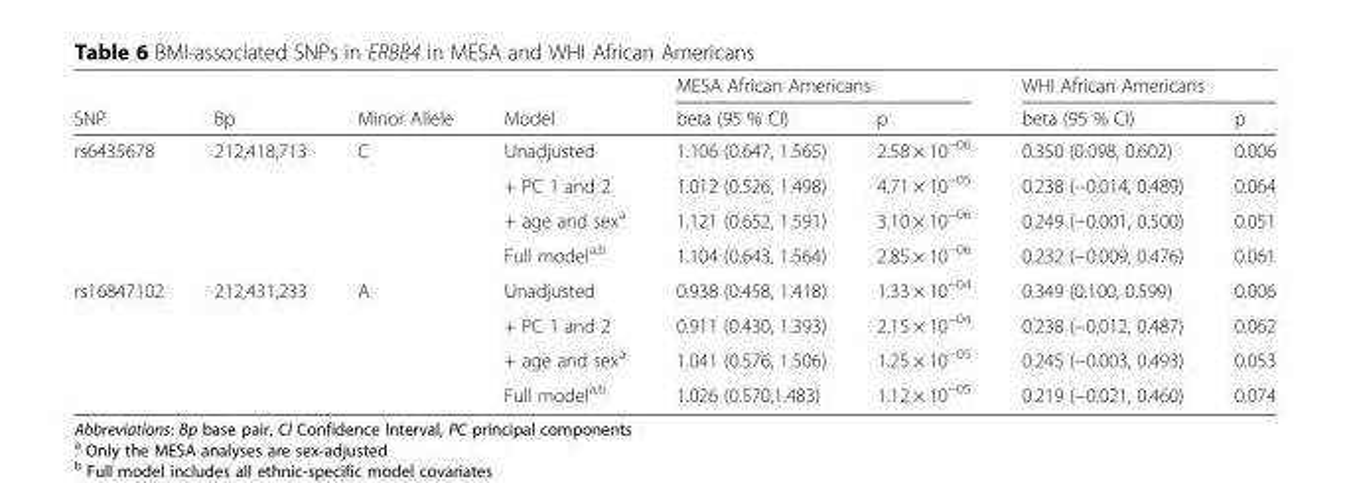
<table><thead><tr><td rowspan="2">SNP</td><td rowspan="2">Bp</td><td rowspan="2">Minor Allele</td><td rowspan="2">Model</td><td colspan="2">MESA African Americans</td><td colspan="2">WHI African Americans</td></tr><tr><td>beta (95 % CI)</td><td>p</td><td>beta (95 % CI)</td><td>p</td></tr></thead><tbody><tr><td rowspan="4">rs6435678</td><td rowspan="4">212,418,713</td><td rowspan="4">C</td><td>Unadjusted</td><td>1.106 (0.647, 1.565)</td><td>2.58 × 10<sup>−06</sup></td><td>0.350 (0.098, 0.602)</td><td>0.006</td></tr><tr><td>+ PC 1 and 2</td><td>1.012 (0.526, 1.498)</td><td>4.71 × 10<sup>−05</sup></td><td>0.238 (−0.014, 0.489)</td><td>0.064</td></tr><tr><td>+ age and sex<sup>a</sup></td><td>1.121 (0.652, 1.591)</td><td>3.10 × 10<sup>−06</sup></td><td>0.249 (−0.001, 0.500)</td><td>0.051</td></tr><tr><td>Full model<sup>a,b</sup></td><td>1.104 (0.643, 1.564)</td><td>2.85 × 10<sup>−06</sup></td><td>0.232 (−0.009, 0.476)</td><td>0.061</td></tr><tr><td rowspan="4">rs16847102</td><td rowspan="4">212,431,233</td><td rowspan="4">A</td><td>Unadjusted</td><td>0.938 (0.458, 1.418)</td><td>1.33 × 10<sup>−04</sup></td><td>0.349 (0.100, 0.599)</td><td>0.006</td></tr><tr><td>+ PC 1 and 2</td><td>0.911 (0.430, 1.393)</td><td>2.15 × 10<sup>−04</sup></td><td>0.238 (−0.012, 0.487)</td><td>0.062</td></tr><tr><td>+ age and sex<sup>a</sup></td><td>1.041 (0.576, 1.506)</td><td>1.25 × 10<sup>−05</sup></td><td>0.245 (−0.003, 0.493)</td><td>0.053</td></tr><tr><td>Full model<sup>a,b</sup></td><td>1.026 (0.570,1.483)</td><td>1.12 × 10<sup>−05</sup></td><td>0.219 (−0.021, 0.460)</td><td>0.074</td></tr></tbody></table>